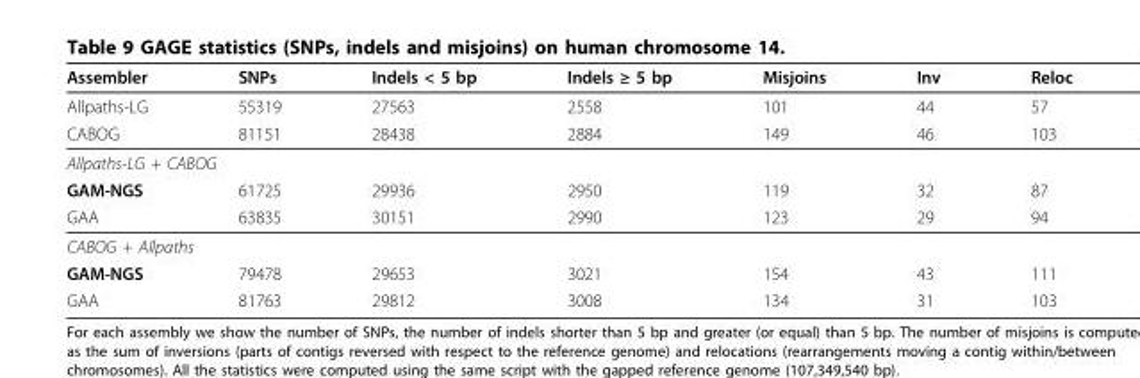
<table><thead><tr><td>Assembler</td><td>SNPs</td><td>Indels &lt; 5 bp</td><td>Indels ≥ 5 bp</td><td>Misjoins</td><td>Inv</td><td>Reloc</td></tr></thead><tbody><tr><td>Allpaths-LG</td><td>55319</td><td>27563</td><td>2558</td><td>101</td><td>44</td><td>57</td></tr><tr><td>CABOG</td><td>81151</td><td>28438</td><td>2884</td><td>149</td><td>46</td><td>103</td></tr><tr><td colspan="7">Allpaths-LG + CABOG</td></tr><tr><td>GAM-NGS</td><td>61725</td><td>29936</td><td>2950</td><td>119</td><td>32</td><td>87</td></tr><tr><td>GAA</td><td>63835</td><td>30151</td><td>2990</td><td>123</td><td>29</td><td>94</td></tr><tr><td colspan="7">CABOG + Allpaths</td></tr><tr><td>GAM-NGS</td><td>79478</td><td>29653</td><td>3021</td><td>154</td><td>43</td><td>111</td></tr><tr><td>GAA</td><td>81763</td><td>29812</td><td>3008</td><td>134</td><td>31</td><td>103</td></tr></tbody></table>